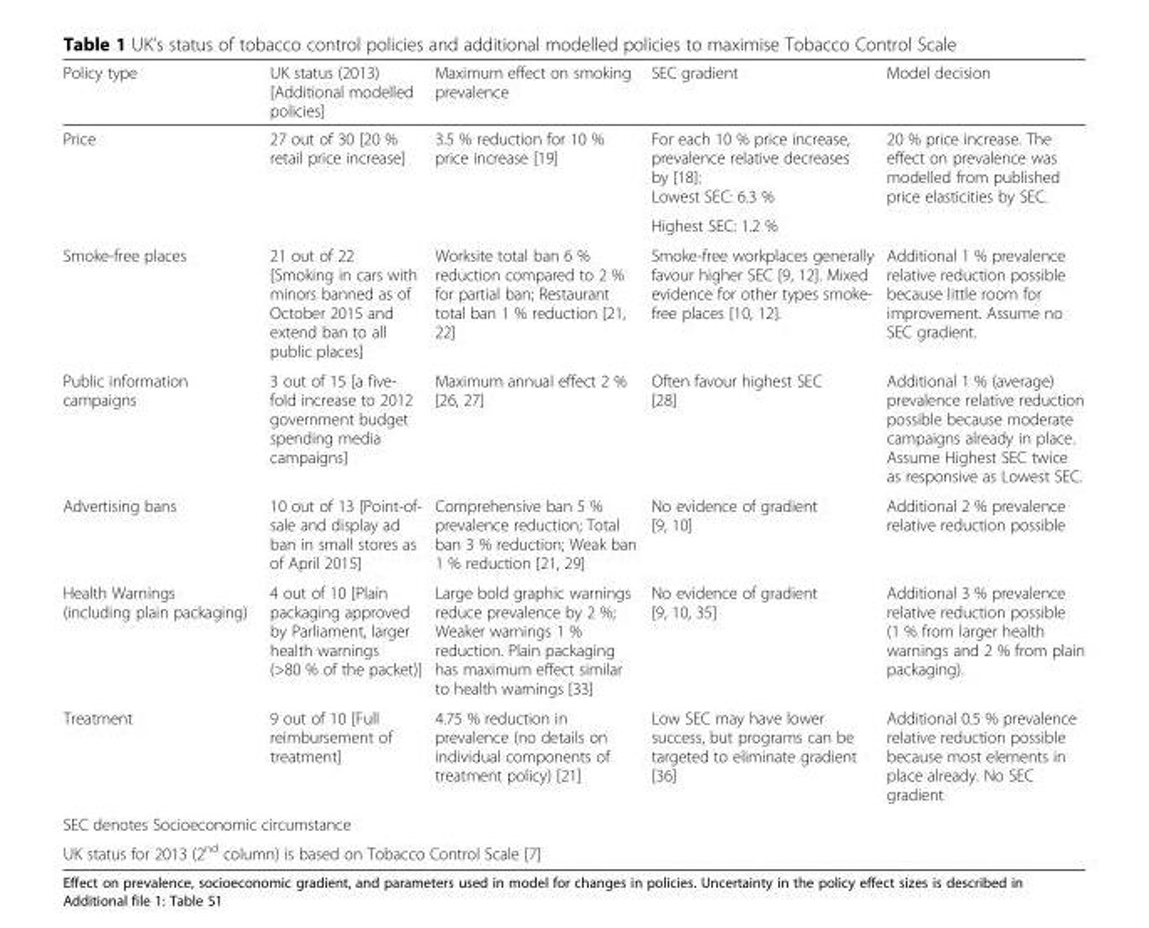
<table><thead><tr><td>Policy type</td><td>UK status (2013) [Additional modelled policies]</td><td>Maximum effect on smoking prevalence</td><td>SEC gradient</td><td>Model decision</td></tr></thead><tbody><tr><td rowspan="2">Price</td><td rowspan="2">27 out of 30 [20 % retail price increase]</td><td rowspan="2">3.5 % reduction for 10 % price increase [19]</td><td>For each 10 % price increase, prevalence relative decreases by [18]: Lowest SEC: 6.3 %</td><td rowspan="2">20 % price increase. The effect on prevalence was modelled from published price elasticities by SEC.</td></tr><tr><td>Highest SEC: 1.2 %</td></tr><tr><td>Smoke-free places</td><td>21 out of 22 [Smoking in cars with minors banned as of October 2015 and extend ban to all public places]</td><td>Worksite total ban 6 % reduction compared to 2 % for partial ban; Restaurant total ban 1 % reduction [21, 22]</td><td>Smoke-free workplaces generally favour higher SEC [9, 12]. Mixed evidence for other types smoke- free places [10, 12].</td><td>Additional 1 % prevalence relative reduction possible because little room for improvement. Assume no SEC gradient.</td></tr><tr><td>Public information campaigns</td><td>3 out of 15 [a five- fold increase to 2012 government budget spending media campaigns]</td><td>Maximum annual effect 2 % [26, 27]</td><td>Often favour highest SEC [28]</td><td>Additional 1 % (average) prevalence relative reduction possible because moderate campaigns already in place. Assume Highest SEC twice as responsive as Lowest SEC.</td></tr><tr><td>Advertising bans</td><td>10 out of 13 [Point-of- sale and display ad ban in small stores as of April 2015]</td><td>Comprehensive ban 5 % prevalence reduction; Total ban 3 % reduction; Weak ban 1 % reduction [21, 29]</td><td>No evidence of gradient [9, 10]</td><td>Additional 2 % prevalence relative reduction possible</td></tr><tr><td>Health Warnings (including plain packaging)</td><td>4 out of 10 [Plain packaging approved by Parliament, larger health warnings (&gt;80 % of the packet)]</td><td>Large bold graphic warnings reduce prevalence by 2 %; Weaker warnings 1 % reduction. Plain packaging has maximum effect similar to health warnings [33]</td><td>No evidence of gradient [9, 10, 35]</td><td>Additional 3 % prevalence relative reduction possible (1 % from larger health warnings and 2 % from plain packaging).</td></tr><tr><td>Treatment</td><td>9 out of 10 [Full reimbursement of treatment]</td><td>4.75 % reduction in prevalence (no details on individual components of treatment policy) [21]</td><td>Low SEC may have lower success, but programs can be targeted to eliminate gradient [36]</td><td>Additional 0.5 % prevalence relative reduction possible because most elements in place already. No SEC gradient</td></tr><tr><td colspan="5">SEC denotes Socioeconomic circumstance</td></tr><tr><td colspan="5">UK status for 2013 (2<sup>nd</sup> column) is based on Tobacco Control Scale [7]</td></tr></tbody></table>